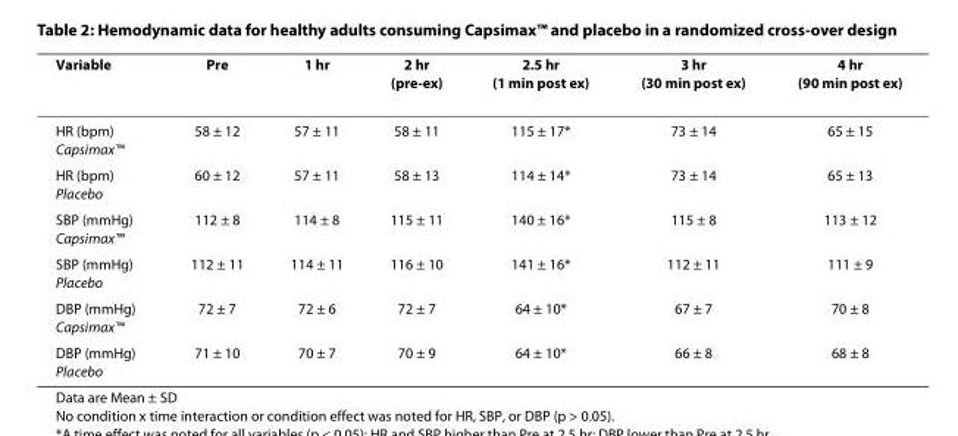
<table><thead><tr><td>Variable</td><td>Pre</td><td>1 hr</td><td>2 hr (pre-ex)</td><td>2.5 hr (1 min post ex)</td><td>3 hr (30 min post ex)</td><td>4 hr (90 min post ex)</td></tr></thead><tbody><tr><td>HR (bpm) Capsimax™</td><td>58 ± 12</td><td>57 ± 11</td><td>58 ± 11</td><td>115 ± 17*</td><td>73 ± 14</td><td>65 ± 15</td></tr><tr><td>HR (bpm) Placebo</td><td>60 ± 12</td><td>57 ± 11</td><td>58 ± 13</td><td>114 ± 14*</td><td>73 ± 14</td><td>65 ± 13</td></tr><tr><td>SBP (mmHg) Capsimax™</td><td>112 ± 8</td><td>114 ± 8</td><td>115 ± 11</td><td>140 ± 16*</td><td>115 ± 8</td><td>113 ± 12</td></tr><tr><td>SBP (mmHg) Placebo</td><td>112 ± 11</td><td>114 ± 11</td><td>116 ± 10</td><td>141 ± 16*</td><td>112 ± 11</td><td>111 ± 9</td></tr><tr><td>DBP (mmHg) Capsimax™</td><td>72 ± 7</td><td>72 ± 6</td><td>72 ± 7</td><td>64 ± 10*</td><td>67 ± 7</td><td>70 ± 8</td></tr><tr><td>DBP (mmHg) Placebo</td><td>71 ± 10</td><td>70 ± 7</td><td>70 ± 9</td><td>64 ± 10*</td><td>66 ± 8</td><td>68 ± 8</td></tr></tbody></table>